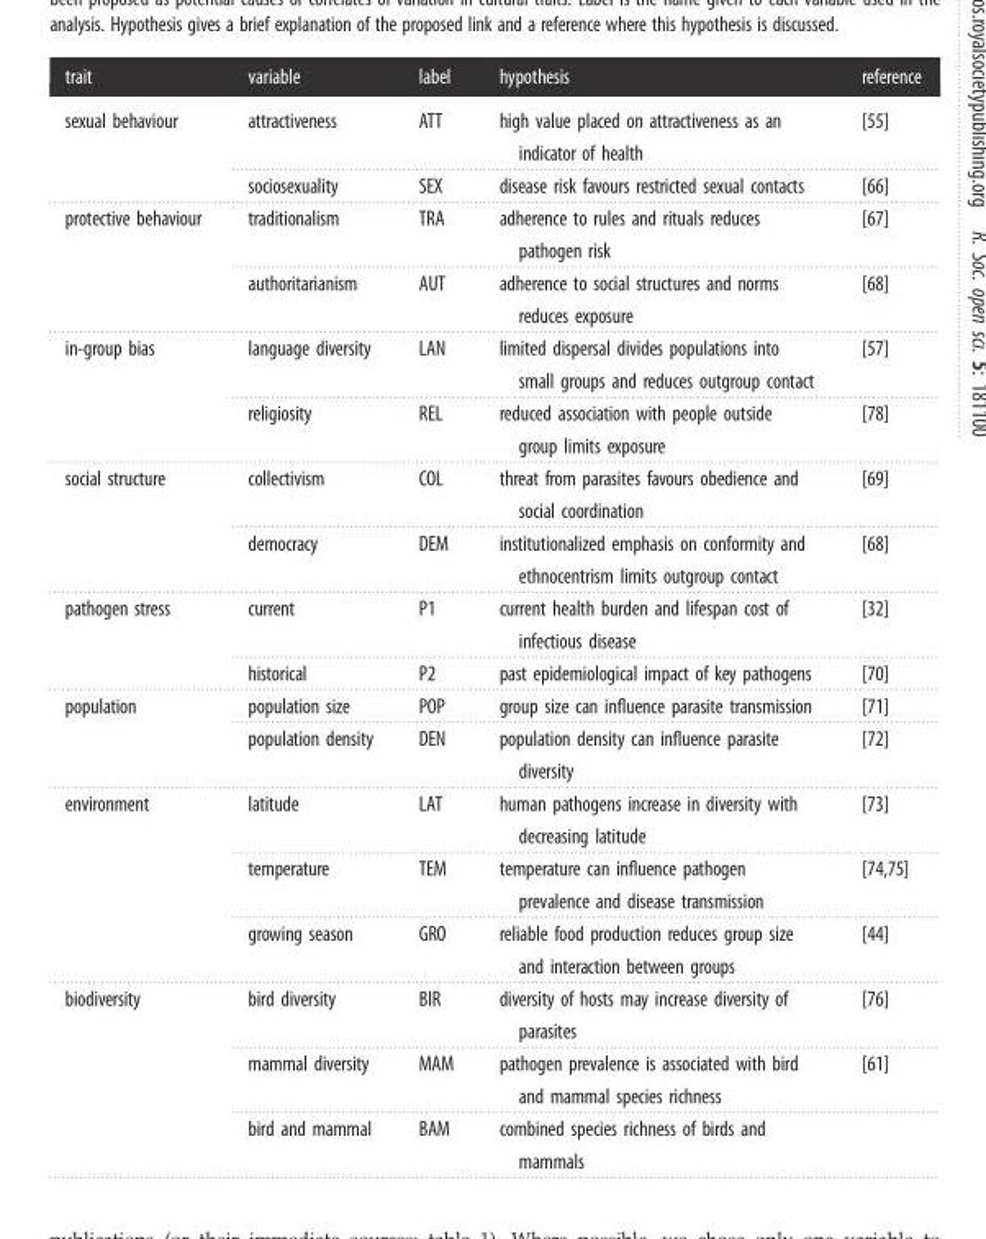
<table><thead><tr><td>trait</td><td>variable</td><td>label</td><td>hypothesis</td><td>reference</td></tr></thead><tbody><tr><td rowspan="2">sexual behaviour</td><td>attractiveness</td><td>ATT</td><td>high value placed on attractiveness as an indicator of health</td><td>[55]</td></tr><tr><td>sociosexuality</td><td>SEX</td><td>disease risk favours restricted sexual contacts</td><td>[66]</td></tr><tr><td rowspan="2">protective behaviour</td><td>traditionalism</td><td>TRA</td><td>adherence to rules and rituals reduces pathogen risk</td><td>[67]</td></tr><tr><td>authoritarianism</td><td>AUT</td><td>adherence to social structures and norms reduces exposure</td><td>[68]</td></tr><tr><td rowspan="2">in-group bias</td><td>language diversity</td><td>LAN</td><td>limited dispersal divides populations into small groups and reduces outgroup contact</td><td>[57]</td></tr><tr><td>religiosity</td><td>REL</td><td>reduced association with people outside group limits exposure</td><td>[78]</td></tr><tr><td rowspan="2">social structure</td><td>collectivism</td><td>COL</td><td>threat from parasites favours obedience and social coordination</td><td>[69]</td></tr><tr><td>democracy</td><td>DEM</td><td>institutionalized emphasis on conformity and ethnocentrism limits outgroup contact</td><td>[68]</td></tr><tr><td rowspan="2">pathogen stress</td><td>current</td><td>P1</td><td>current health burden and lifespan cost of infectious disease</td><td>[32]</td></tr><tr><td>historical</td><td>P2</td><td>past epidemiological impact of key pathogens</td><td>[70]</td></tr><tr><td rowspan="2">population</td><td>population size</td><td>POP</td><td>group size can influence parasite transmission</td><td>[71]</td></tr><tr><td>population density</td><td>DEN</td><td>population density can influence parasite diversity</td><td>[72]</td></tr><tr><td rowspan="3">environment</td><td>latitude</td><td>LAT</td><td>human pathogens increase in diversity with decreasing latitude</td><td>[73]</td></tr><tr><td>temperature</td><td>TEM</td><td>temperature can influence pathogen prevalence and disease transmission</td><td>[74,75]</td></tr><tr><td>growing season</td><td>GRO</td><td>reliable food production reduces group size and interaction between groups</td><td>[44]</td></tr><tr><td rowspan="3">biodiversity</td><td>bird diversity</td><td>BIR</td><td>diversity of hosts may increase diversity of parasites</td><td>[76]</td></tr><tr><td>mammal diversity</td><td>MAM</td><td>pathogen prevalence is associated with bird and mammal species richness</td><td>[61]</td></tr><tr><td>bird and mammal</td><td>BAM</td><td>combined species richness of birds and mammals</td><td></td></tr></tbody></table>